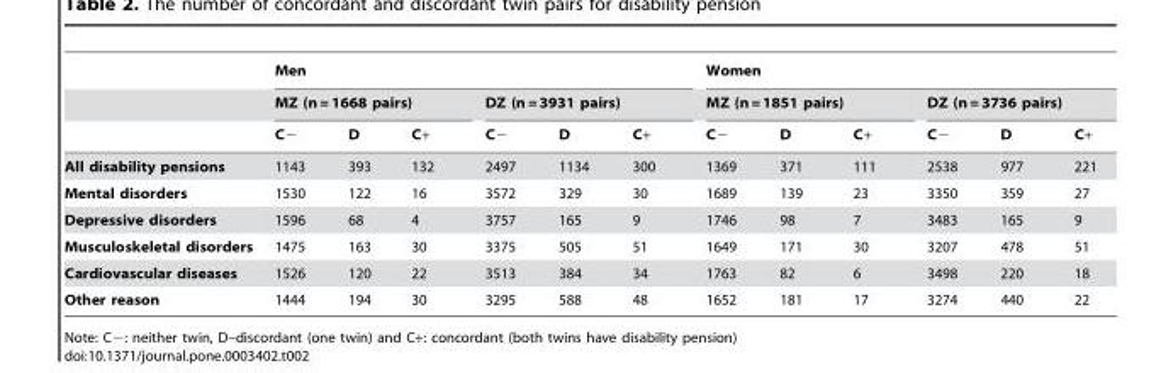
<table><thead><tr><td rowspan="3"></td><td colspan="6">Men</td><td colspan="6">Women</td></tr><tr><td colspan="3">MZ (n = 1668 pairs)</td><td colspan="3">DZ (n = 3931 pairs)</td><td colspan="3">MZ (n = 1851 pairs)</td><td colspan="3">DZ (n = 3736 pairs)</td></tr><tr><td>C−</td><td>D</td><td>C+</td><td>C−</td><td>D</td><td>C+</td><td>C−</td><td>D</td><td>C+</td><td>C−</td><td>D</td><td>C+</td></tr></thead><tbody><tr><td>All disability pensions</td><td>1143</td><td>393</td><td>132</td><td>2497</td><td>1134</td><td>300</td><td>1369</td><td>371</td><td>111</td><td>2538</td><td>977</td><td>221</td></tr><tr><td>Mental disorders</td><td>1530</td><td>122</td><td>16</td><td>3572</td><td>329</td><td>30</td><td>1689</td><td>139</td><td>23</td><td>3350</td><td>359</td><td>27</td></tr><tr><td>Depressive disorders</td><td>1596</td><td>68</td><td>4</td><td>3757</td><td>165</td><td>9</td><td>1746</td><td>98</td><td>7</td><td>3483</td><td>165</td><td>9</td></tr><tr><td>Musculoskeletal disorders</td><td>1475</td><td>163</td><td>30</td><td>3375</td><td>505</td><td>51</td><td>1649</td><td>171</td><td>30</td><td>3207</td><td>478</td><td>51</td></tr><tr><td>Cardiovascular diseases</td><td>1526</td><td>120</td><td>22</td><td>3513</td><td>384</td><td>34</td><td>1763</td><td>82</td><td>6</td><td>3498</td><td>220</td><td>18</td></tr><tr><td>Other reason</td><td>1444</td><td>194</td><td>30</td><td>3295</td><td>588</td><td>48</td><td>1652</td><td>181</td><td>17</td><td>3274</td><td>440</td><td>22</td></tr></tbody></table>